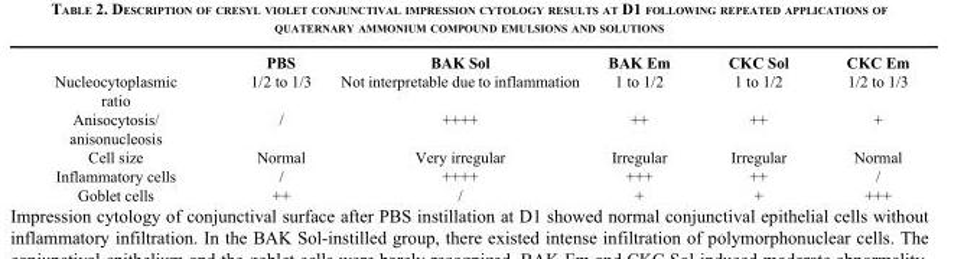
<table><thead><tr><td></td><td>PBS</td><td>BAK Sol</td><td>BAK Em</td><td>CKC Sol</td><td>CKC Em</td></tr></thead><tbody><tr><td>Nucleocytoplasmic ratio</td><td>1/2 to 1/3</td><td>Not interpretable due to inflammation</td><td>1 to 1/2</td><td>1 to 1/2</td><td>1/2 to 1/3</td></tr><tr><td>Anisocytosis/ anisonucleosis</td><td>/</td><td>++++</td><td>++</td><td>++</td><td>+</td></tr><tr><td>Cell size</td><td>Normal</td><td>Very irregular</td><td>Irregular</td><td>Irregular</td><td>Normal</td></tr><tr><td>Inflammatory cells</td><td>/</td><td>++++</td><td>+++</td><td>++</td><td>/</td></tr><tr><td>Goblet cells</td><td>++</td><td>/</td><td>+</td><td>+</td><td>+++</td></tr></tbody></table>